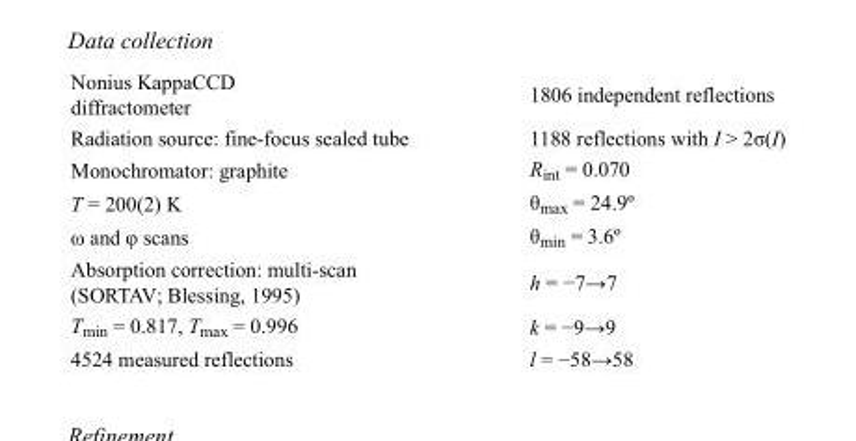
<table><tbody><tr><td>Nonius KappaCCD diffractometer</td><td>1806 independent reflections</td></tr><tr><td>Radiation source: fine-focus sealed tube</td><td>1188 reflections with I &gt; 2σ(I)</td></tr><tr><td>Monochromator: graphite</td><td>R<sub>int</sub> = 0.070</td></tr><tr><td>T = 200(2) K</td><td>θ<sub>max</sub> = 24.9º</td></tr><tr><td>ω and φ scans</td><td>θ<sub>min</sub> = 3.6º</td></tr><tr><td>Absorption correction: multi-scan (SORTAV; Blessing, 1995)</td><td>h = −7→7</td></tr><tr><td>T<sub>min</sub> = 0.817, T<sub>max</sub> = 0.996</td><td>k = −9→9</td></tr><tr><td>4524 measured reflections</td><td>l = −58→58</td></tr></tbody></table>